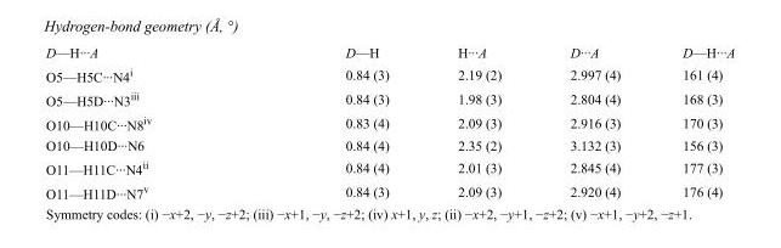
<table><tbody><tr><td>D—H···A</td><td>D—H</td><td>H···A</td><td>D···A</td><td>D—H···A</td></tr><tr><td>O5—H5C···N4<sup>i</sup></td><td>0.84 (3)</td><td>2.19 (2)</td><td>2.997 (4)</td><td>161 (4)</td></tr><tr><td>O5—H5D···N3<sup>iii</sup></td><td>0.84 (3)</td><td>1.98 (3)</td><td>2.804 (4)</td><td>168 (3)</td></tr><tr><td>O10—H10C···N8<sup>iv</sup></td><td>0.83 (4)</td><td>2.09 (3)</td><td>2.916 (3)</td><td>170 (3)</td></tr><tr><td>O10—H10D···N6</td><td>0.84 (4)</td><td>2.35 (2)</td><td>3.132 (3)</td><td>156 (3)</td></tr><tr><td>O11—H11C···N4<sup>ii</sup></td><td>0.84 (4)</td><td>2.01 (3)</td><td>2.845 (4)</td><td>177 (3)</td></tr><tr><td>O11—H11D···N7<sup>v</sup></td><td>0.84 (3)</td><td>2.09 (3)</td><td>2.920 (4)</td><td>176 (4)</td></tr></tbody></table>